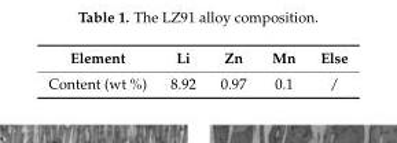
<table><thead><tr><td>Element</td><td>Li</td><td>Zn</td><td>Mn</td><td>Else</td></tr></thead><tbody><tr><td>Content (wt %)</td><td>8.92</td><td>0.97</td><td>0.1</td><td>/</td></tr></tbody></table>